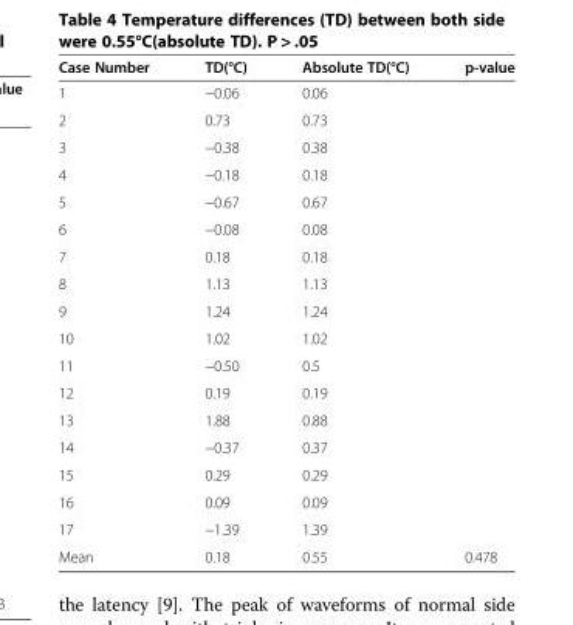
<table><thead><tr><td>Case Number</td><td>TD(°C)</td><td>Absolute TD(°C)</td><td>p-value</td></tr></thead><tbody><tr><td>1</td><td>−0.06</td><td>0.06</td><td></td></tr><tr><td>2</td><td>0.73</td><td>0.73</td><td></td></tr><tr><td>3</td><td>−0.38</td><td>0.38</td><td></td></tr><tr><td>4</td><td>−0.18</td><td>0.18</td><td></td></tr><tr><td>5</td><td>−0.67</td><td>0.67</td><td></td></tr><tr><td>6</td><td>−0.08</td><td>0.08</td><td></td></tr><tr><td>7</td><td>0.18</td><td>0.18</td><td></td></tr><tr><td>8</td><td>1.13</td><td>1.13</td><td></td></tr><tr><td>9</td><td>1.24</td><td>1.24</td><td></td></tr><tr><td>10</td><td>1.02</td><td>1.02</td><td></td></tr><tr><td>11</td><td>−0.50</td><td>0.5</td><td></td></tr><tr><td>12</td><td>0.19</td><td>0.19</td><td></td></tr><tr><td>13</td><td>1.88</td><td>0.88</td><td></td></tr><tr><td>14</td><td>−0.37</td><td>0.37</td><td></td></tr><tr><td>15</td><td>0.29</td><td>0.29</td><td></td></tr><tr><td>16</td><td>0.09</td><td>0.09</td><td></td></tr><tr><td>17</td><td>−1.39</td><td>1.39</td><td></td></tr><tr><td>Mean</td><td>0.18</td><td>0.55</td><td>0.478</td></tr></tbody></table>